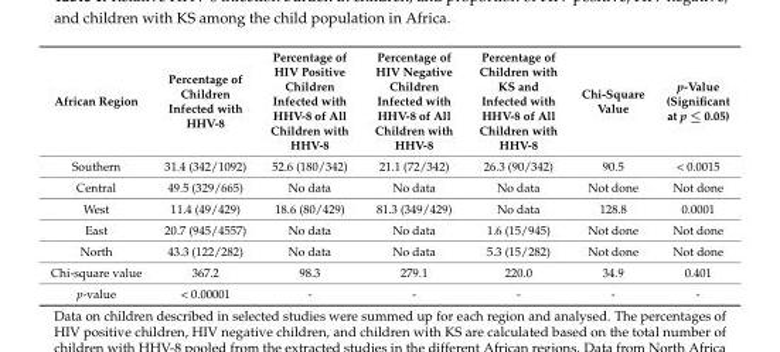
<table><thead><tr><td>African Region</td><td>Percentage of Children Infected with HHV-8</td><td>Percentage of HIV Positive Children Infected with HHV-8 of All Children with HHV-8</td><td>Percentage of HIV Negative Children Infected with HHV-8 of All Children with HHV-8</td><td>Percentage of Children with KS and Infected with HHV-8 of All Children with HHV-8</td><td>Chi-Square Value</td><td>p-Value (Significant at p ≤ 0.05)</td></tr></thead><tbody><tr><td>Southern</td><td>31.4 (342/1092)</td><td>52.6 (180/342)</td><td>21.1 (72/342)</td><td>26.3 (90/342)</td><td>90.5</td><td>&lt; 0.0015</td></tr><tr><td>Central</td><td>49.5 (329/665)</td><td>No data</td><td>No data</td><td>No data</td><td>Not done</td><td>Not done</td></tr><tr><td>West</td><td>11.4 (49/429)</td><td>18.6 (80/429)</td><td>81.3 (349/429)</td><td>No data</td><td>128.8</td><td>0.0001</td></tr><tr><td>East</td><td>20.7 (945/4557)</td><td>No data</td><td>No data</td><td>1.6 (15/945)</td><td>Not done</td><td>Not done</td></tr><tr><td>North</td><td>43.3 (122/282)</td><td>No data</td><td>No data</td><td>5.3 (15/282)</td><td>Not done</td><td>Not done</td></tr><tr><td>Chi-square value</td><td>367.2</td><td>98.3</td><td>279.1</td><td>220.0</td><td>34.9</td><td>0.401</td></tr><tr><td>p-value</td><td>&lt; 0.00001</td><td>-</td><td>-</td><td>-</td><td>-</td><td>-</td></tr></tbody></table>